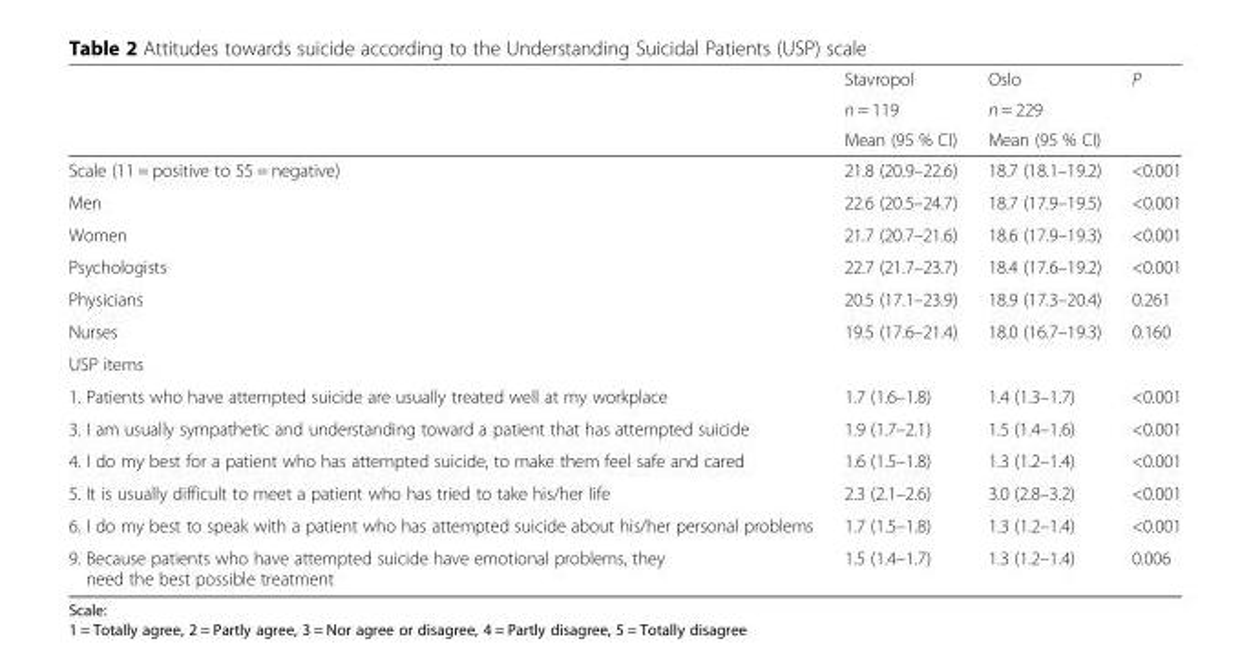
<table><thead><tr><td rowspan="3"></td><td rowspan="3">Stavropol n = 119 Mean (95 % CI)</td><td rowspan="3">Oslo n = 229 Mean (95 % CI)</td><td rowspan="3">P</td></tr><tr></tr><tr></tr></thead><tbody><tr><td>Scale (11 = positive to 55 = negative)</td><td>21.8 (20.9–22.6)</td><td>18.7 (18.1–19.2)</td><td>&lt;0.001</td></tr><tr><td>Men</td><td>22.6 (20.5–24.7)</td><td>18.7 (17.9–19.5)</td><td>&lt;0.001</td></tr><tr><td>Women</td><td>21.7 (20.7–21.6)</td><td>18.6 (17.9–19.3)</td><td>&lt;0.001</td></tr><tr><td>Psychologists</td><td>22.7 (21.7–23.7)</td><td>18.4 (17.6–19.2)</td><td>&lt;0.001</td></tr><tr><td>Physicians</td><td>20.5 (17.1–23.9)</td><td>18.9 (17.3–20.4)</td><td>0.261</td></tr><tr><td>Nurses</td><td>19.5 (17.6–21.4)</td><td>18.0 (16.7–19.3)</td><td>0.160</td></tr><tr><td colspan="4">USP items</td></tr><tr><td>1. Patients who have attempted suicide are usually treated well at my workplace</td><td>1.7 (1.6–1.8)</td><td>1.4 (1.3–1.7)</td><td>&lt;0.001</td></tr><tr><td>3. I am usually sympathetic and understanding toward a patient that has attempted suicide</td><td>1.9 (1.7–2.1)</td><td>1.5 (1.4–1.6)</td><td>&lt;0.001</td></tr><tr><td>4. I do my best for a patient who has attempted suicide, to make them feel safe and cared</td><td>1.6 (1.5–1.8)</td><td>1.3 (1.2–1.4)</td><td>&lt;0.001</td></tr><tr><td>5. It is usually difficult to meet a patient who has tried to take his/her life</td><td>2.3 (2.1–2.6)</td><td>3.0 (2.8–3.2)</td><td>&lt;0.001</td></tr><tr><td>6. I do my best to speak with a patient who has attempted suicide about his/her personal problems</td><td>1.7 (1.5–1.8)</td><td>1.3 (1.2–1.4)</td><td>&lt;0.001</td></tr><tr><td>9. Because patients who have attempted suicide have emotional problems, they need the best possible treatment</td><td>1.5 (1.4–1.7)</td><td>1.3 (1.2–1.4)</td><td>0.006</td></tr></tbody></table>